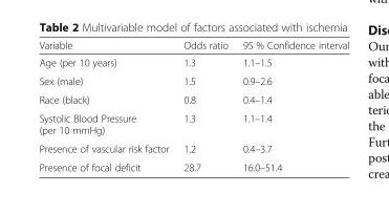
<table><thead><tr><td>Variable</td><td>Odds ratio</td><td>95 % Confidence interval</td></tr></thead><tbody><tr><td>Age (per 10 years)</td><td>1.3</td><td>1.1–1.5</td></tr><tr><td>Sex (male)</td><td>1.5</td><td>0.9–2.6</td></tr><tr><td>Race (black)</td><td>0.8</td><td>0.4–1.4</td></tr><tr><td>Systolic Blood Pressure (per 10 mmHg)</td><td>1.3</td><td>1.1–1.4</td></tr><tr><td>Presence of vascular risk factor</td><td>1.2</td><td>0.4–3.7</td></tr><tr><td>Presence of focal deficit</td><td>28.7</td><td>16.0–51.4</td></tr></tbody></table>